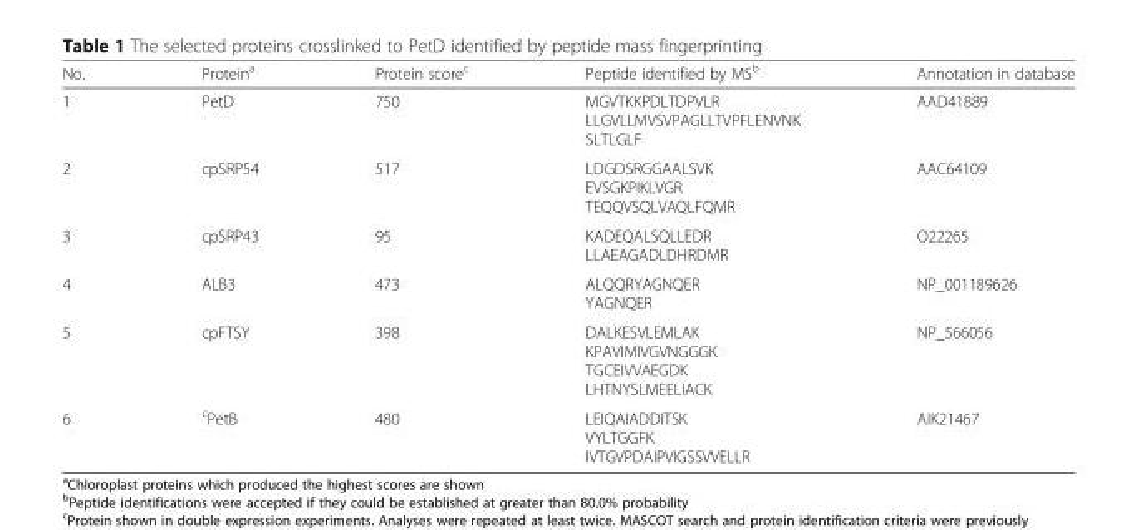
<table><thead><tr><td>No.</td><td>Protein<sup>a</sup></td><td>Protein score<sup>c</sup></td><td>Peptide identified by MS<sup>b</sup></td><td>Annotation in database</td></tr></thead><tbody><tr><td>1</td><td>PetD</td><td>750</td><td>MGVTKKPDLTDPVLR LLGVLLMVSVPAGLLTVPFLENVNK SLTLGLF</td><td>AAD41889</td></tr><tr><td>2</td><td>cpSRP54</td><td>517</td><td>LDGDSRGGAALSVK EVSGKPIKLVGR TEQQVSQLVAQLFQMR</td><td>AAC64109</td></tr><tr><td>3</td><td>cpSRP43</td><td>95</td><td>KADEQALSQLLEDR LLAEAGADLDHRDMR</td><td>O22265</td></tr><tr><td>4</td><td>ALB3</td><td>473</td><td>ALQQRYAGNQER YAGNQER</td><td>NP_001189626</td></tr><tr><td>5</td><td>cpFTSY</td><td>398</td><td>DALKESVLEMLAK KPAVIMIVGVNGGGK TGCEIVVAEGDK LHTNYSLMEELIACK</td><td>NP_566056</td></tr><tr><td>6</td><td><sup>c</sup>PetB</td><td>480</td><td>LEIQAIADDITSK VYLTGGFK IVTGVPDAIPVIGSSVVELLR</td><td>AIK21467</td></tr></tbody></table>